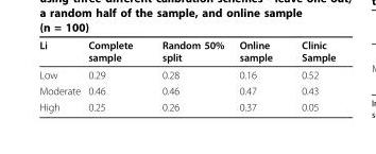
<table><thead><tr><td>Li</td><td>Complete sample</td><td>Random 50% split</td><td>Online sample</td><td>Clinic Sample</td></tr></thead><tbody><tr><td>Low</td><td>0.29</td><td>0.28</td><td>0.16</td><td>0.52</td></tr><tr><td>Moderate</td><td>0.46</td><td>0.46</td><td>0.47</td><td>0.43</td></tr><tr><td>High</td><td>0.25</td><td>0.26</td><td>0.37</td><td>0.05</td></tr></tbody></table>